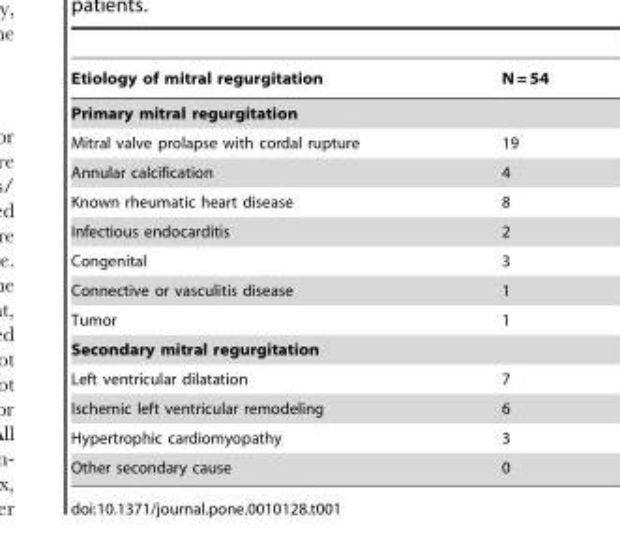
<table><thead><tr><td>Etiology of mitral regurgitation</td><td>N = 54</td></tr></thead><tbody><tr><td colspan="2">Primary mitral regurgitation</td></tr><tr><td>Mitral valve prolapse with cordal rupture</td><td>19</td></tr><tr><td>Annular calcification</td><td>4</td></tr><tr><td>Known rheumatic heart disease</td><td>8</td></tr><tr><td>Infectious endocarditis</td><td>2</td></tr><tr><td>Congenital</td><td>3</td></tr><tr><td>Connective or vasculitis disease</td><td>1</td></tr><tr><td>Tumor</td><td>1</td></tr><tr><td colspan="2">Secondary mitral regurgitation</td></tr><tr><td>Left ventricular dilatation</td><td>7</td></tr><tr><td>Ischemic left ventricular remodeling</td><td>6</td></tr><tr><td>Hypertrophic cardiomyopathy</td><td>3</td></tr><tr><td>Other secondary cause</td><td>0</td></tr></tbody></table>